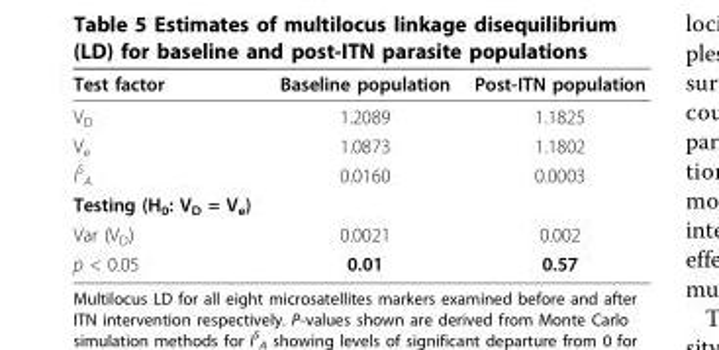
<table><thead><tr><td>Test factor</td><td>Baseline population</td><td>Post-ITN population</td></tr></thead><tbody><tr><td>V<sub>D</sub></td><td>1.2089</td><td>1.1825</td></tr><tr><td>V<sub>e</sub></td><td>1.0873</td><td>1.1802</td></tr><tr><td>I<sup>S</sup> <sub>A</sub></td><td>0.0160</td><td>0.0003</td></tr><tr><td colspan="3">Testing (H<sub>0</sub>: V<sub>D</sub> = V<sub>e</sub>)</td></tr><tr><td>Var (V<sub>D</sub>)</td><td>0.0021</td><td>0.002</td></tr><tr><td>p &lt; 0.05</td><td>0.01</td><td>0.57</td></tr></tbody></table>